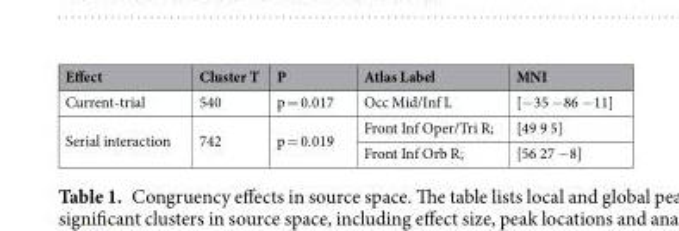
<table><thead><tr><td>Effect</td><td>Cluster T</td><td>P</td><td>Atlas Label</td><td>MNI</td></tr></thead><tbody><tr><td>Current-trial</td><td>540</td><td>p = 0.017</td><td>Occ Mid/Inf L</td><td>[−35 −86 −11]</td></tr><tr><td rowspan="2">Serial interaction</td><td rowspan="2">742</td><td rowspan="2">p = 0.019</td><td>Front Inf Oper/Tri R;</td><td>[49 9 5]</td></tr><tr><td>Front Inf Orb R;</td><td>[56 27 −8]</td></tr></tbody></table>